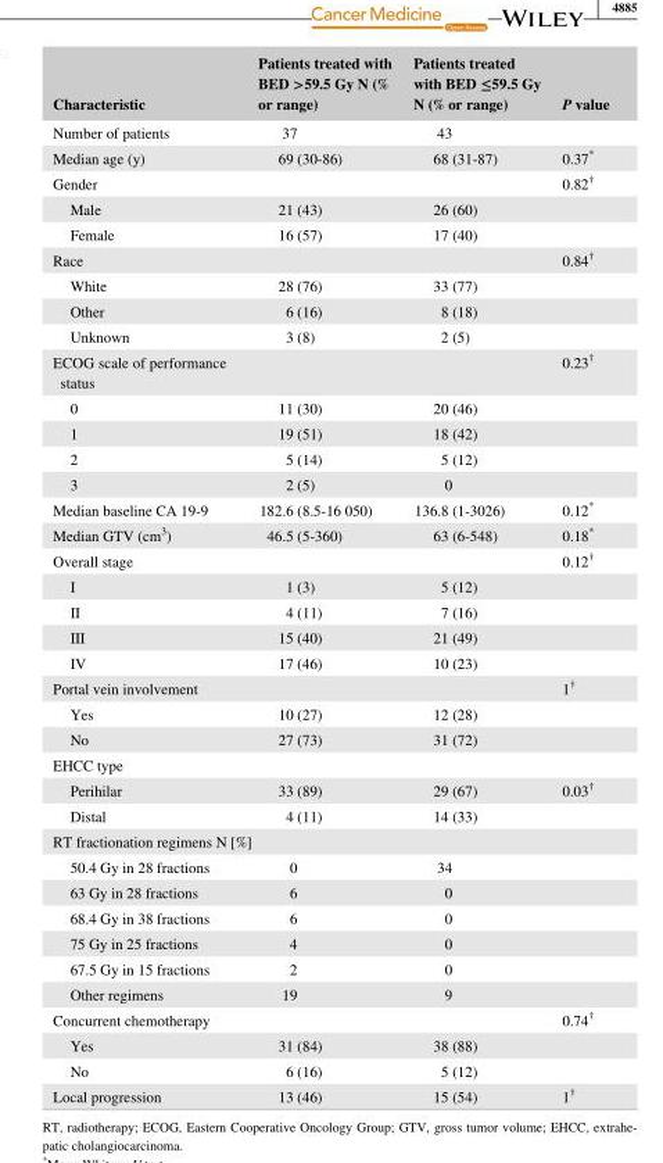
<table><thead><tr><td>Characteristic</td><td>Patients treated with BED &gt;59.5 Gy N (% or range)</td><td>Patients treated with BED ≤59.5 Gy N (% or range)</td><td>P value</td></tr></thead><tbody><tr><td>Number of patients</td><td>37</td><td>43</td><td></td></tr><tr><td>Median age (y)</td><td>69 (30- 86)</td><td>68 (31- 87)</td><td>0.37*</td></tr><tr><td>Gender</td><td></td><td></td><td>0.82†</td></tr><tr><td>Male</td><td>21 (43)</td><td>26 (60)</td><td></td></tr><tr><td>Female</td><td>16 (57)</td><td>17 (40)</td><td></td></tr><tr><td>Race</td><td></td><td></td><td>0.84†</td></tr><tr><td>White</td><td>28 (76)</td><td>33 (77)</td><td></td></tr><tr><td>Other</td><td>6 (16)</td><td>8 (18)</td><td></td></tr><tr><td>Unknown</td><td>3 (8)</td><td>2 (5)</td><td></td></tr><tr><td>ECOG scale of performance status</td><td></td><td></td><td>0.23†</td></tr><tr><td>0</td><td>11 (30)</td><td>20 (46)</td><td></td></tr><tr><td>1</td><td>19 (51)</td><td>18 (42)</td><td></td></tr><tr><td>2</td><td>5 (14)</td><td>5 (12)</td><td></td></tr><tr><td>3</td><td>2 (5)</td><td>0</td><td></td></tr><tr><td>Median baseline CA 19- 9</td><td>182.6 (8.5- 16 050)</td><td>136.8 (1- 3026)</td><td>0.12*</td></tr><tr><td>Median GTV (cm<sup>3</sup>)</td><td>46.5 (5- 360)</td><td>63 (6- 548)</td><td>0.18*</td></tr><tr><td>Overall stage</td><td></td><td></td><td>0.12†</td></tr><tr><td>I</td><td>1 (3)</td><td>5 (12)</td><td></td></tr><tr><td>II</td><td>4 (11)</td><td>7 (16)</td><td></td></tr><tr><td>III</td><td>15 (40)</td><td>21 (49)</td><td></td></tr><tr><td>IV</td><td>17 (46)</td><td>10 (23)</td><td></td></tr><tr><td>Portal vein involvement</td><td></td><td></td><td>1†</td></tr><tr><td>Yes</td><td>10 (27)</td><td>12 (28)</td><td></td></tr><tr><td>No</td><td>27 (73)</td><td>31 (72)</td><td></td></tr><tr><td colspan="4">EHCC type</td></tr><tr><td>Perihilar</td><td>33 (89)</td><td>29 (67)</td><td>0.03†</td></tr><tr><td>Distal</td><td>4 (11)</td><td>14 (33)</td><td></td></tr><tr><td colspan="4">RT fractionation regimens N [%]</td></tr><tr><td>50.4 Gy in 28 fractions</td><td>0</td><td>34</td><td></td></tr><tr><td>63 Gy in 28 fractions</td><td>6</td><td>0</td><td></td></tr><tr><td>68.4 Gy in 38 fractions</td><td>6</td><td>0</td><td></td></tr><tr><td>75 Gy in 25 fractions</td><td>4</td><td>0</td><td></td></tr><tr><td>67.5 Gy in 15 fractions</td><td>2</td><td>0</td><td></td></tr><tr><td>Other regimens</td><td>19</td><td>9</td><td></td></tr><tr><td>Concurrent chemotherapy</td><td></td><td></td><td>0.74†</td></tr><tr><td>Yes</td><td>31 (84)</td><td>38 (88)</td><td></td></tr><tr><td>No</td><td>6 (16)</td><td>5 (12)</td><td></td></tr><tr><td>Local progression</td><td>13 (46)</td><td>15 (54)</td><td>1†</td></tr></tbody></table>